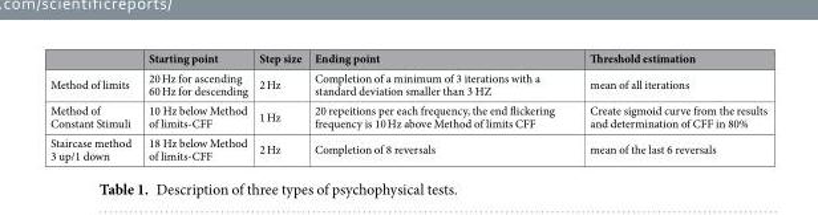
<table><thead><tr><td></td><td>Starting point</td><td>Step size</td><td>Ending point</td><td>Threshold estimation</td></tr></thead><tbody><tr><td>Method of limits</td><td>20 Hz for ascending 60 Hz for descending</td><td>2 Hz</td><td>Completion of a minimum of 3 iterations with a standard deviation smaller than 3 HZ</td><td>mean of all iterations</td></tr><tr><td>Method of Constant Stimuli</td><td>10 Hz below Method of limits-CFF</td><td>1 Hz</td><td>20 repeitions per each frequency, the end flickering frequency is 10 Hz above Method of limits CFF</td><td>Create sigmoid curve from the results and determination of CFF in 80%</td></tr><tr><td>Staircase method 3 up/1 down</td><td>18 Hz below Method of limits-CFF</td><td>2 Hz</td><td>Completion of 8 reversals</td><td>mean of the last 6 reversals</td></tr></tbody></table>